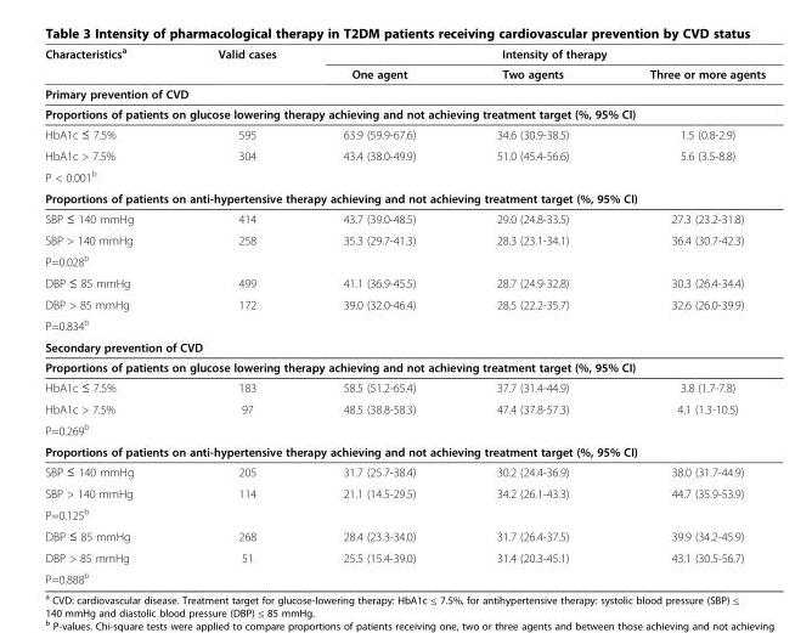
<table><thead><tr><td rowspan="2">Characteristics<sup>a</sup></td><td rowspan="2">Valid cases</td><td colspan="3">Intensity of therapy</td></tr><tr><td>One agent</td><td>Two agents</td><td>Three or more agents</td></tr></thead><tbody><tr><td colspan="5">Primary prevention of CVD</td></tr><tr><td colspan="5">Proportions of patients on glucose lowering therapy achieving and not achieving treatment target (%, 95% CI)</td></tr><tr><td>HbA1c ≤ 7.5%</td><td>595</td><td>63.9 (59.9-67.6)</td><td>34.6 (30.9-38.5)</td><td>1.5 (0.8-2.9)</td></tr><tr><td>HbA1c &gt; 7.5%</td><td>304</td><td>43.4 (38.0-49.9)</td><td>51.0 (45.4-56.6)</td><td>5.6 (3.5-8.8)</td></tr><tr><td colspan="5">P &lt; 0.001<sup>b</sup></td></tr><tr><td colspan="5">Proportions of patients on anti-hypertensive therapy achieving and not achieving treatment target (%, 95% CI)</td></tr><tr><td>SBP ≤ 140 mmHg</td><td>414</td><td>43.7 (39.0-48.5)</td><td>29.0 (24.8-33.5)</td><td>27.3 (23.2-31.8)</td></tr><tr><td>SBP &gt; 140 mmHg</td><td>258</td><td>35.3 (29.7-41.3)</td><td>28.3 (23.1-34.1)</td><td>36.4 (30.7-42.3)</td></tr><tr><td colspan="5">P=0.028<sup>b</sup></td></tr><tr><td>DBP ≤ 85 mmHg</td><td>499</td><td>41.1 (36.9-45.5)</td><td>28.7 (24.9-32.8)</td><td>30.3 (26.4-34.4)</td></tr><tr><td>DBP &gt; 85 mmHg</td><td>172</td><td>39.0 (32.0-46.4)</td><td>28.5 (22.2-35.7)</td><td>32.6 (26.0-39.9)</td></tr><tr><td colspan="5">P=0.834<sup>b</sup></td></tr><tr><td colspan="5">Secondary prevention of CVD</td></tr><tr><td colspan="5">Proportions of patients on glucose lowering therapy achieving and not achieving treatment target (%, 95% CI)</td></tr><tr><td>HbA1c ≤ 7.5%</td><td>183</td><td>58.5 (51.2-65.4)</td><td>37.7 (31.4-44.9)</td><td>3.8 (1.7-7.8)</td></tr><tr><td>HbA1c &gt; 7.5%</td><td>97</td><td>48.5 (38.8-58.3)</td><td>47.4 (37.8-57.3)</td><td>4.1 (1.3-10.5)</td></tr><tr><td colspan="5">P=0.269<sup>b</sup></td></tr><tr><td colspan="5">Proportions of patients on anti-hypertensive therapy achieving and not achieving treatment target (%, 95% CI)</td></tr><tr><td>SBP ≤ 140 mmHg</td><td>205</td><td>31.7 (25.7-38.4)</td><td>30.2 (24.4-36.9)</td><td>38.0 (31.7-44.9)</td></tr><tr><td>SBP &gt; 140 mmHg</td><td>114</td><td>21.1 (14.5-29.5)</td><td>34.2 (26.1-43.3)</td><td>44.7 (35.9-53.9)</td></tr><tr><td colspan="5">P=0.125<sup>b</sup></td></tr><tr><td>DBP ≤ 85 mmHg</td><td>268</td><td>28.4 (23.3-34.0)</td><td>31.7 (26.4-37.5)</td><td>39.9 (34.2-45.9)</td></tr><tr><td>DBP &gt; 85 mmHg</td><td>51</td><td>25.5 (15.4-39.0)</td><td>31.4 (20.3-45.1)</td><td>43.1 (30.5-56.7)</td></tr><tr><td>P=0.888<sup>b</sup></td><td></td><td></td><td></td><td></td></tr></tbody></table>